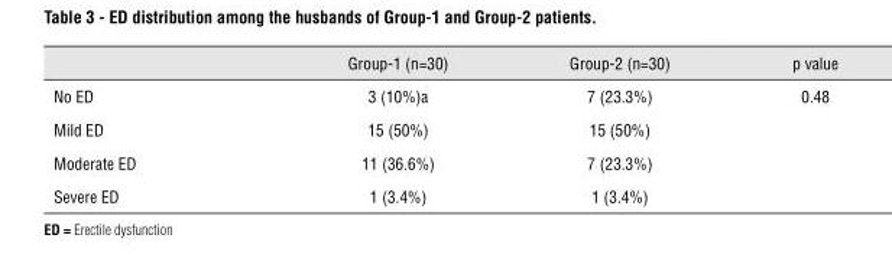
<table><thead><tr><td></td><td>Group-1 (n=30)</td><td>Group-2 (n=30)</td><td>p value</td></tr></thead><tbody><tr><td>No ED</td><td>3 (10%)a</td><td>7 (23.3%)</td><td>0.48</td></tr><tr><td>Mild ED</td><td>15 (50%)</td><td>15 (50%)</td><td></td></tr><tr><td>Moderate ED</td><td>11 (36.6%)</td><td>7 (23.3%)</td><td></td></tr><tr><td>Severe ED</td><td>1 (3.4%)</td><td>1 (3.4%)</td><td></td></tr></tbody></table>